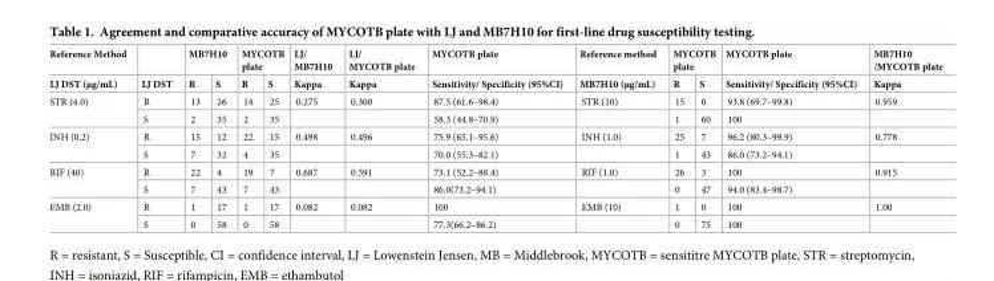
<table><thead><tr><td rowspan="2">Reference Method LJ DST (μg/mL)</td><td rowspan="2">LJ DST</td><td colspan="2">MB7H10</td><td colspan="2">MYCOTB plate</td><td rowspan="2">LJ/ MB7H10 Kappa</td><td rowspan="2">LJ/ MYCOTB plate Kappa</td><td rowspan="2">MYCOTB plate Sensitivity/ Specificity (95%CI)</td><td rowspan="2">Reference method MB7H10 (μg/mL)</td><td colspan="2">MYCOTB plate</td><td rowspan="2">MYCOTB plate Sensitivity/ Specificity (95%CI)</td><td rowspan="2">MB7H10 /MYCOTB plate Kappa</td></tr><tr><td>R</td><td>S</td><td>R</td><td>S</td><td>R</td><td>S</td></tr></thead><tbody><tr><td rowspan="2">STR (4.0)</td><td>R</td><td>13</td><td>26</td><td>14</td><td>25</td><td>0.275</td><td>0.300</td><td>87.5 (61.6–98.4)</td><td>STR (10)</td><td>15</td><td>0</td><td>93.8 (69.7–99.8)</td><td>0.959</td></tr><tr><td>S</td><td>2</td><td>35</td><td>2</td><td>35</td><td></td><td></td><td>58.3 (44.8–70.9)</td><td></td><td>1</td><td>60</td><td>100</td><td></td></tr><tr><td rowspan="2">INH (0.2)</td><td>R</td><td>15</td><td>12</td><td>22</td><td>15</td><td>0.498</td><td>0.496</td><td>75.9 (65.1–95.6)</td><td>INH (1.0)</td><td>25</td><td>7</td><td>96.2 (80.3–99.9)</td><td>0.778</td></tr><tr><td>S</td><td>7</td><td>32</td><td>4</td><td>35</td><td></td><td></td><td>70.0 (55.3–82.1)</td><td></td><td>1</td><td>43</td><td>86.0 (73.2–94.1)</td><td></td></tr><tr><td rowspan="2">RIF (40)</td><td>R</td><td>22</td><td>4</td><td>19</td><td>7</td><td>0.687</td><td>0.591</td><td>73.1 (52.2–88.4)</td><td>RIF (1.0)</td><td>26</td><td>3</td><td>100</td><td>0.915</td></tr><tr><td>S</td><td>7</td><td>43</td><td>7</td><td>43</td><td></td><td></td><td>86.0(73.2–94.1)</td><td></td><td>0</td><td>47</td><td>94.0 (83.4–98.7)</td><td></td></tr><tr><td rowspan="2">EMB (2.0)</td><td>R</td><td>1</td><td>17</td><td>1</td><td>17</td><td>0.082</td><td>0.082</td><td>100</td><td>EMB (10)</td><td>1</td><td>0</td><td>100</td><td>1.00</td></tr><tr><td>S</td><td>0</td><td>58</td><td>0</td><td>58</td><td></td><td></td><td>77.3(66.2–86.2)</td><td></td><td>0</td><td>75</td><td>100</td><td></td></tr></tbody></table>